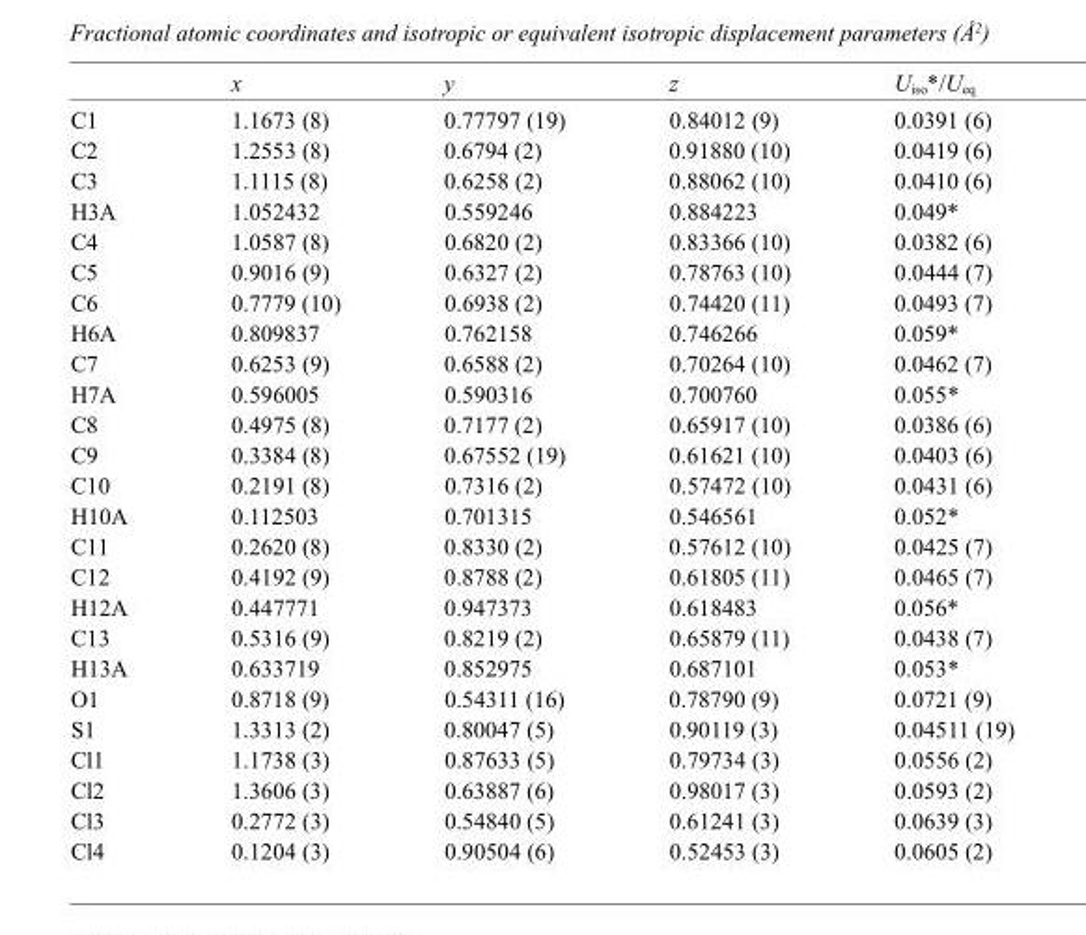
<table><thead><tr><td></td><td>x</td><td>y</td><td>z</td><td>U<sub>iso</sub>*/U<sub>eq</sub></td></tr></thead><tbody><tr><td>C1</td><td>1.1673 (8)</td><td>0.77797 (19)</td><td>0.84012 (9)</td><td>0.0391 (6)</td></tr><tr><td>C2</td><td>1.2553 (8)</td><td>0.6794 (2)</td><td>0.91880 (10)</td><td>0.0419 (6)</td></tr><tr><td>C3</td><td>1.1115 (8)</td><td>0.6258 (2)</td><td>0.88062 (10)</td><td>0.0410 (6)</td></tr><tr><td>H3A</td><td>1.052432</td><td>0.559246</td><td>0.884223</td><td>0.049*</td></tr><tr><td>C4</td><td>1.0587 (8)</td><td>0.6820 (2)</td><td>0.83366 (10)</td><td>0.0382 (6)</td></tr><tr><td>C5</td><td>0.9016 (9)</td><td>0.6327 (2)</td><td>0.78763 (10)</td><td>0.0444 (7)</td></tr><tr><td>C6</td><td>0.7779 (10)</td><td>0.6938 (2)</td><td>0.74420 (11)</td><td>0.0493 (7)</td></tr><tr><td>H6A</td><td>0.809837</td><td>0.762158</td><td>0.746266</td><td>0.059*</td></tr><tr><td>C7</td><td>0.6253 (9)</td><td>0.6588 (2)</td><td>0.70264 (10)</td><td>0.0462 (7)</td></tr><tr><td>H7A</td><td>0.596005</td><td>0.590316</td><td>0.700760</td><td>0.055*</td></tr><tr><td>C8</td><td>0.4975 (8)</td><td>0.7177 (2)</td><td>0.65917 (10)</td><td>0.0386 (6)</td></tr><tr><td>C9</td><td>0.3384 (8)</td><td>0.67552 (19)</td><td>0.61621 (10)</td><td>0.0403 (6)</td></tr><tr><td>C10</td><td>0.2191 (8)</td><td>0.7316 (2)</td><td>0.57472 (10)</td><td>0.0431 (6)</td></tr><tr><td>H10A</td><td>0.112503</td><td>0.701315</td><td>0.546561</td><td>0.052*</td></tr><tr><td>C11</td><td>0.2620 (8)</td><td>0.8330 (2)</td><td>0.57612 (10)</td><td>0.0425 (7)</td></tr><tr><td>C12</td><td>0.4192 (9)</td><td>0.8788 (2)</td><td>0.61805 (11)</td><td>0.0465 (7)</td></tr><tr><td>H12A</td><td>0.447771</td><td>0.947373</td><td>0.618483</td><td>0.056*</td></tr><tr><td>C13</td><td>0.5316 (9)</td><td>0.8219 (2)</td><td>0.65879 (11)</td><td>0.0438 (7)</td></tr><tr><td>H13A</td><td>0.633719</td><td>0.852975</td><td>0.687101</td><td>0.053*</td></tr><tr><td>O1</td><td>0.8718 (9)</td><td>0.54311 (16)</td><td>0.78790 (9)</td><td>0.0721 (9)</td></tr><tr><td>S1</td><td>1.3313 (2)</td><td>0.80047 (5)</td><td>0.90119 (3)</td><td>0.04511 (19)</td></tr><tr><td>Cl1</td><td>1.1738 (3)</td><td>0.87633 (5)</td><td>0.79734 (3)</td><td>0.0556 (2)</td></tr><tr><td>Cl2</td><td>1.3606 (3)</td><td>0.63887 (6)</td><td>0.98017 (3)</td><td>0.0593 (2)</td></tr><tr><td>Cl3</td><td>0.2772 (3)</td><td>0.54840 (5)</td><td>0.61241 (3)</td><td>0.0639 (3)</td></tr><tr><td>Cl4</td><td>0.1204 (3)</td><td>0.90504 (6)</td><td>0.52453 (3)</td><td>0.0605 (2)</td></tr></tbody></table>